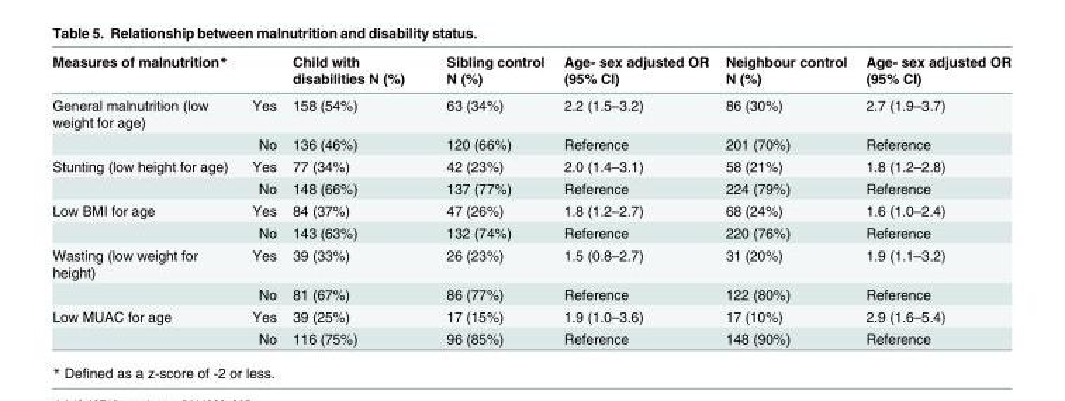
<table><thead><tr><td>Measures of malnutrition*</td><td></td><td>Child with disabilities N (%)</td><td>Sibling control N (%)</td><td>Age- sex adjusted OR (95% CI)</td><td>Neighbour control N (%)</td><td>Age- sex adjusted OR (95% CI)</td></tr></thead><tbody><tr><td rowspan="2">General malnutrition (low weight for age)</td><td>Yes</td><td>158 (54%)</td><td>63 (34%)</td><td>2.2 (1.5–3.2)</td><td>86 (30%)</td><td>2.7 (1.9–3.7)</td></tr><tr><td>No</td><td>136 (46%)</td><td>120 (66%)</td><td>Reference</td><td>201 (70%)</td><td>Reference</td></tr><tr><td rowspan="2">Stunting (low height for age)</td><td>Yes</td><td>77 (34%)</td><td>42 (23%)</td><td>2.0 (1.4–3.1)</td><td>58 (21%)</td><td>1.8 (1.2–2.8)</td></tr><tr><td>No</td><td>148 (66%)</td><td>137 (77%)</td><td>Reference</td><td>224 (79%)</td><td>Reference</td></tr><tr><td rowspan="2">Low BMI for age</td><td>Yes</td><td>84 (37%)</td><td>47 (26%)</td><td>1.8 (1.2–2.7)</td><td>68 (24%)</td><td>1.6 (1.0–2.4)</td></tr><tr><td>No</td><td>143 (63%)</td><td>132 (74%)</td><td>Reference</td><td>220 (76%)</td><td>Reference</td></tr><tr><td rowspan="2">Wasting (low weight for height)</td><td>Yes</td><td>39 (33%)</td><td>26 (23%)</td><td>1.5 (0.8–2.7)</td><td>31 (20%)</td><td>1.9 (1.1–3.2)</td></tr><tr><td>No</td><td>81 (67%)</td><td>86 (77%)</td><td>Reference</td><td>122 (80%)</td><td>Reference</td></tr><tr><td rowspan="2">Low MUAC for age</td><td>Yes</td><td>39 (25%)</td><td>17 (15%)</td><td>1.9 (1.0–3.6)</td><td>17 (10%)</td><td>2.9 (1.6–5.4)</td></tr><tr><td>No</td><td>116 (75%)</td><td>96 (85%)</td><td>Reference</td><td>148 (90%)</td><td>Reference</td></tr></tbody></table>